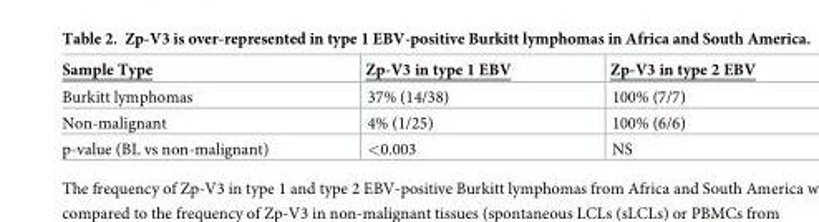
<table><thead><tr><td>Sample Type</td><td>Zp-V3 in type 1 EBV</td><td>Zp-V3 in type 2 EBV</td></tr></thead><tbody><tr><td>Burkitt lymphomas</td><td>37% (14/38)</td><td>100% (7/7)</td></tr><tr><td>Non-malignant</td><td>4% (1/25)</td><td>100% (6/6)</td></tr><tr><td>p-value (BL vs non-malignant)</td><td>&lt;0.003</td><td>NS</td></tr></tbody></table>